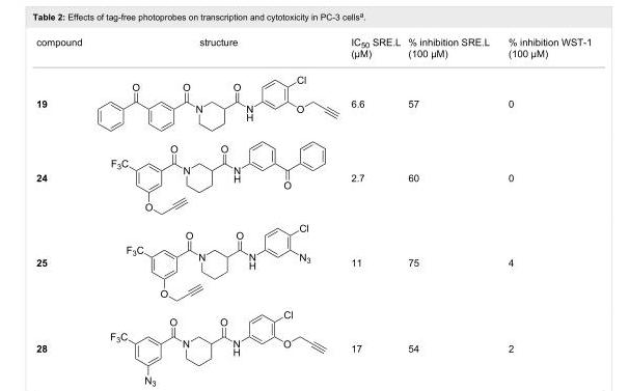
<table><tbody><tr><td>compound</td><td>structure</td><td>IC<sub>50</sub> SRE.L (µM)</td><td>% inhibition SRE.L (100 µM)</td><td>% inhibition WST-1 (100 µM)</td></tr><tr><td>19</td><td></td><td>6.6</td><td>57</td><td>0</td></tr><tr><td>24</td><td></td><td>2.7</td><td>60</td><td>0</td></tr><tr><td>25</td><td></td><td>11</td><td>75</td><td>4</td></tr><tr><td>28</td><td></td><td>17</td><td>54</td><td>2</td></tr></tbody></table>